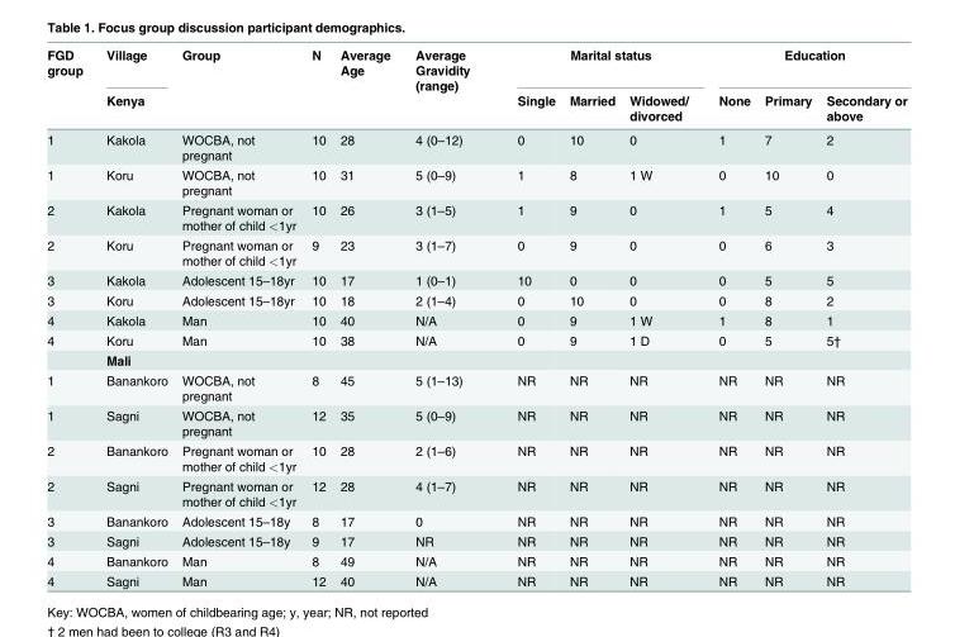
<table><thead><tr><td rowspan="2">FGD group</td><td rowspan="2">Village Kenya</td><td rowspan="2">Group</td><td rowspan="2">N</td><td rowspan="2">Average Age</td><td rowspan="2">Average Gravidity (range)</td><td colspan="3">Marital status</td><td colspan="3">Education</td></tr><tr><td>Single</td><td>Married</td><td>Widowed/ divorced</td><td>None</td><td>Primary</td><td>Secondary or above</td></tr></thead><tbody><tr><td>1</td><td>Kakola</td><td>WOCBA, not pregnant</td><td>10</td><td>28</td><td>4 (0–12)</td><td>0</td><td>10</td><td>0</td><td>1</td><td>7</td><td>2</td></tr><tr><td>1</td><td>Koru</td><td>WOCBA, not pregnant</td><td>10</td><td>31</td><td>5 (0–9)</td><td>1</td><td>8</td><td>1 W</td><td>0</td><td>10</td><td>0</td></tr><tr><td>2</td><td>Kakola</td><td>Pregnant woman or mother of child &lt;1yr</td><td>10</td><td>26</td><td>3 (1–5)</td><td>1</td><td>9</td><td>0</td><td>1</td><td>5</td><td>4</td></tr><tr><td>2</td><td>Koru</td><td>Pregnant woman or mother of child &lt;1yr</td><td>9</td><td>23</td><td>3 (1–7)</td><td>0</td><td>9</td><td>0</td><td>0</td><td>6</td><td>3</td></tr><tr><td>3</td><td>Kakola</td><td>Adolescent 15–18yr</td><td>10</td><td>17</td><td>1 (0–1)</td><td>10</td><td>0</td><td>0</td><td>0</td><td>5</td><td>5</td></tr><tr><td>3</td><td>Koru</td><td>Adolescent 15–18yr</td><td>10</td><td>18</td><td>2 (1–4)</td><td>0</td><td>10</td><td>0</td><td>0</td><td>8</td><td>2</td></tr><tr><td>4</td><td>Kakola</td><td>Man</td><td>10</td><td>40</td><td>N/A</td><td>0</td><td>9</td><td>1 W</td><td>1</td><td>8</td><td>1</td></tr><tr><td rowspan="2">4</td><td>Koru</td><td>Man</td><td>10</td><td>38</td><td>N/A</td><td>0</td><td>9</td><td>1 D</td><td>0</td><td>5</td><td>5†</td></tr><tr><td>Mali</td><td></td><td></td><td></td><td></td><td></td><td></td><td></td><td></td><td></td><td></td></tr><tr><td>1</td><td>Banankoro</td><td>WOCBA, not pregnant</td><td>8</td><td>45</td><td>5 (1–13)</td><td>NR</td><td>NR</td><td>NR</td><td>NR</td><td>NR</td><td>NR</td></tr><tr><td>1</td><td>Sagni</td><td>WOCBA, not pregnant</td><td>12</td><td>35</td><td>5 (0–9)</td><td>NR</td><td>NR</td><td>NR</td><td>NR</td><td>NR</td><td>NR</td></tr><tr><td>2</td><td>Banankoro</td><td>Pregnant woman or mother of child &lt;1yr</td><td>10</td><td>28</td><td>2 (1–6)</td><td>NR</td><td>NR</td><td>NR</td><td>NR</td><td>NR</td><td>NR</td></tr><tr><td>2</td><td>Sagni</td><td>Pregnant woman or mother of child &lt;1yr</td><td>12</td><td>28</td><td>4 (1–7)</td><td>NR</td><td>NR</td><td>NR</td><td>NR</td><td>NR</td><td>NR</td></tr><tr><td>3</td><td>Banankoro</td><td>Adolescent 15–18y</td><td>8</td><td>17</td><td>0</td><td>NR</td><td>NR</td><td>NR</td><td>NR</td><td>NR</td><td>NR</td></tr><tr><td>3</td><td>Sagni</td><td>Adolescent 15–18y</td><td>9</td><td>17</td><td>NR</td><td>NR</td><td>NR</td><td>NR</td><td>NR</td><td>NR</td><td>NR</td></tr><tr><td>4</td><td>Banankoro</td><td>Man</td><td>8</td><td>49</td><td>N/A</td><td>NR</td><td>NR</td><td>NR</td><td>NR</td><td>NR</td><td>NR</td></tr><tr><td>4</td><td>Sagni</td><td>Man</td><td>12</td><td>40</td><td>N/A</td><td>NR</td><td>NR</td><td>NR</td><td>NR</td><td>NR</td><td>NR</td></tr></tbody></table>